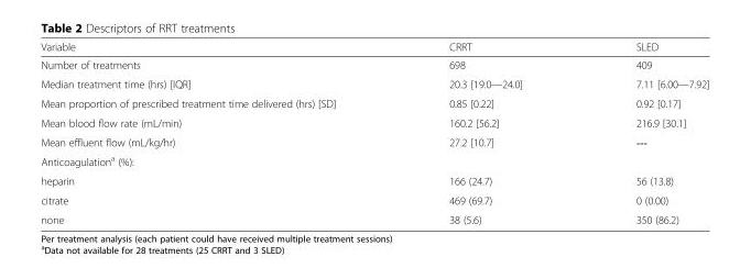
<table><thead><tr><td>Variable</td><td>CRRT</td><td>SLED</td></tr></thead><tbody><tr><td>Number of treatments</td><td>698</td><td>409</td></tr><tr><td>Median treatment time (hrs) [IQR]</td><td>20.3 [19.0—24.0]</td><td>7.11 [6.00—7.92]</td></tr><tr><td>Mean proportion of prescribed treatment time delivered (hrs) [SD]</td><td>0.85 [0.22]</td><td>0.92 [0.17]</td></tr><tr><td>Mean blood flow rate (mL/min)</td><td>160.2 [56.2]</td><td>216.9 [30.1]</td></tr><tr><td>Mean effluent flow (mL/kg/hr)</td><td>27.2 [10.7]</td><td>---</td></tr><tr><td colspan="3">Anticoagulation<sup>a</sup> (%):</td></tr><tr><td>heparin</td><td>166 (24.7)</td><td>56 (13.8)</td></tr><tr><td>citrate</td><td>469 (69.7)</td><td>0 (0.00)</td></tr><tr><td>none</td><td>38 (5.6)</td><td>350 (86.2)</td></tr></tbody></table>